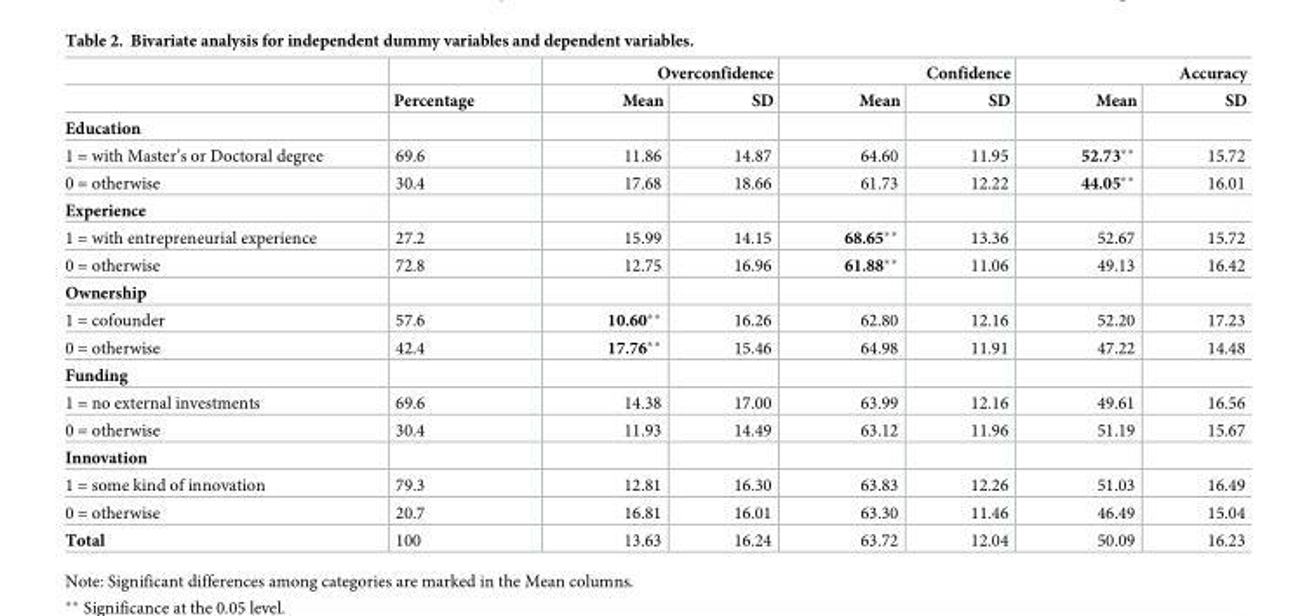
<table><thead><tr><td rowspan="2"></td><td rowspan="2">Percentage</td><td colspan="2">Overconfidence</td><td colspan="2">Confidence</td><td colspan="2">Accuracy</td></tr><tr><td>Mean</td><td>SD</td><td>Mean</td><td>SD</td><td>Mean</td><td>SD</td></tr></thead><tbody><tr><td colspan="8">Education</td></tr><tr><td>1 = with Master’s or Doctoral degree</td><td>69.6</td><td>11.86</td><td>14.87</td><td>64.60</td><td>11.95</td><td>52.73**</td><td>15.72</td></tr><tr><td>0 = otherwise</td><td>30.4</td><td>17.68</td><td>18.66</td><td>61.73</td><td>12.22</td><td>44.05**</td><td>16.01</td></tr><tr><td colspan="8">Experience</td></tr><tr><td>1 = with entrepreneurial experience</td><td>27.2</td><td>15.99</td><td>14.15</td><td>68.65**</td><td>13.36</td><td>52.67</td><td>15.72</td></tr><tr><td>0 = otherwise</td><td>72.8</td><td>12.75</td><td>16.96</td><td>61.88**</td><td>11.06</td><td>49.13</td><td>16.42</td></tr><tr><td colspan="8">Ownership</td></tr><tr><td>1 = cofounder</td><td>57.6</td><td>10.60**</td><td>16.26</td><td>62.80</td><td>12.16</td><td>52.20</td><td>17.23</td></tr><tr><td>0 = otherwise</td><td>42.4</td><td>17.76**</td><td>15.46</td><td>64.98</td><td>11.91</td><td>47.22</td><td>14.48</td></tr><tr><td colspan="8">Funding</td></tr><tr><td>1 = no external investments</td><td>69.6</td><td>14.38</td><td>17.00</td><td>63.99</td><td>12.16</td><td>49.61</td><td>16.56</td></tr><tr><td>0 = otherwise</td><td>30.4</td><td>11.93</td><td>14.49</td><td>63.12</td><td>11.96</td><td>51.19</td><td>15.67</td></tr><tr><td colspan="8">Innovation</td></tr><tr><td>1 = some kind of innovation</td><td>79.3</td><td>12.81</td><td>16.30</td><td>63.83</td><td>12.26</td><td>51.03</td><td>16.49</td></tr><tr><td>0 = otherwise</td><td>20.7</td><td>16.81</td><td>16.01</td><td>63.30</td><td>11.46</td><td>46.49</td><td>15.04</td></tr><tr><td>Total</td><td>100</td><td>13.63</td><td>16.24</td><td>63.72</td><td>12.04</td><td>50.09</td><td>16.23</td></tr></tbody></table>